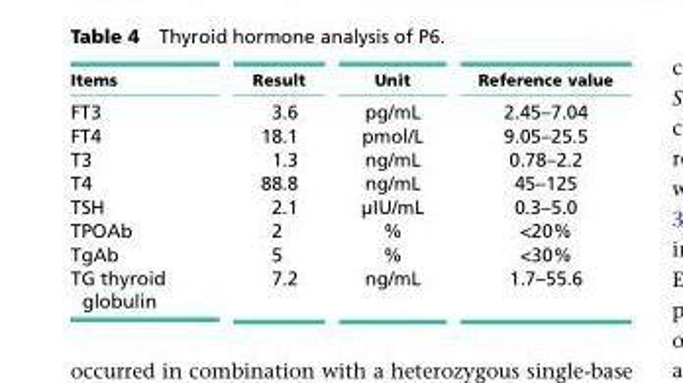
<table><thead><tr><td>Items</td><td>Result</td><td>Unit</td><td>Reference value</td></tr></thead><tbody><tr><td>FT3</td><td>3.6</td><td>pg/mL</td><td>2.45–7.04</td></tr><tr><td>FT4</td><td>18.1</td><td>pmol/L</td><td>9.05–25.5</td></tr><tr><td>T3</td><td>1.3</td><td>ng/mL</td><td>0.78–2.2</td></tr><tr><td>T4</td><td>88.8</td><td>ng/mL</td><td>45–125</td></tr><tr><td>TSH</td><td>2.1</td><td>µIU/mL</td><td>0.3–5.0</td></tr><tr><td>TPOAb</td><td>2</td><td>%</td><td>&lt;20%</td></tr><tr><td>TgAb</td><td>5</td><td>%</td><td>&lt;30%</td></tr><tr><td>TG thyroid globulin</td><td>7.2</td><td>ng/mL</td><td>1.7–55.6</td></tr></tbody></table>